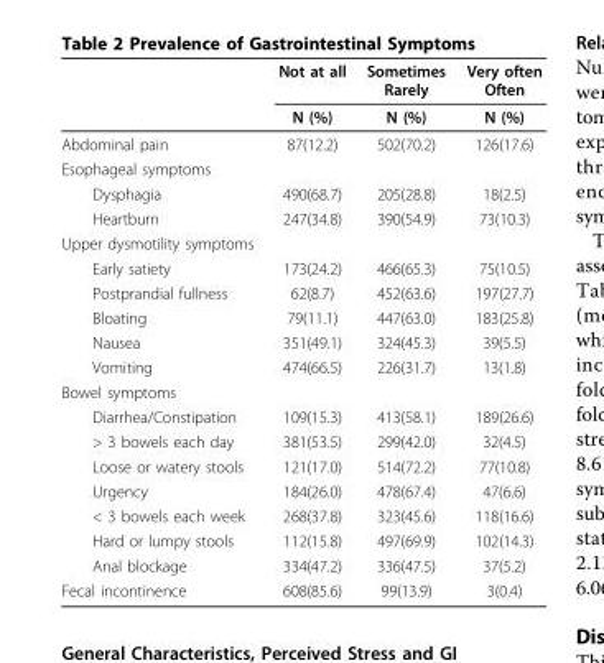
<table><thead><tr><td></td><td>Not at all</td><td>Sometimes Rarely</td><td>Very often Often</td></tr></thead><tbody><tr><td></td><td>N (%)</td><td>N (%)</td><td>N (%)</td></tr><tr><td>Abdominal pain</td><td>87(12.2)</td><td>502(70.2)</td><td>126(17.6)</td></tr><tr><td colspan="4">Esophageal symptoms</td></tr><tr><td>Dysphagia</td><td>490(68.7)</td><td>205(28.8)</td><td>18(2.5)</td></tr><tr><td>Heartburn</td><td>247(34.8)</td><td>390(54.9)</td><td>73(10.3)</td></tr><tr><td colspan="4">Upper dysmotility symptoms</td></tr><tr><td>Early satiety</td><td>173(24.2)</td><td>466(65.3)</td><td>75(10.5)</td></tr><tr><td>Postprandial fullness</td><td>62(8.7)</td><td>452(63.6)</td><td>197(27.7)</td></tr><tr><td>Bloating</td><td>79(11.1)</td><td>447(63.0)</td><td>183(25.8)</td></tr><tr><td>Nausea</td><td>351(49.1)</td><td>324(45.3)</td><td>39(5.5)</td></tr><tr><td>Vomiting</td><td>474(66.5)</td><td>226(31.7)</td><td>13(1.8)</td></tr><tr><td colspan="4">Bowel symptoms</td></tr><tr><td>Diarrhea/Constipation</td><td>109(15.3)</td><td>413(58.1)</td><td>189(26.6)</td></tr><tr><td>&gt; 3 bowels each day</td><td>381(53.5)</td><td>299(42.0)</td><td>32(4.5)</td></tr><tr><td>Loose or watery stools</td><td>121(17.0)</td><td>514(72.2)</td><td>77(10.8)</td></tr><tr><td>Urgency</td><td>184(26.0)</td><td>478(67.4)</td><td>47(6.6)</td></tr><tr><td>&lt; 3 bowels each week</td><td>268(37.8)</td><td>323(45.6)</td><td>118(16.6)</td></tr><tr><td>Hard or lumpy stools</td><td>112(15.8)</td><td>497(69.9)</td><td>102(14.3)</td></tr><tr><td>Anal blockage</td><td>334(47.2)</td><td>336(47.5)</td><td>37(5.2)</td></tr><tr><td>Fecal incontinence</td><td>608(85.6)</td><td>99(13.9)</td><td>3(0.4)</td></tr></tbody></table>